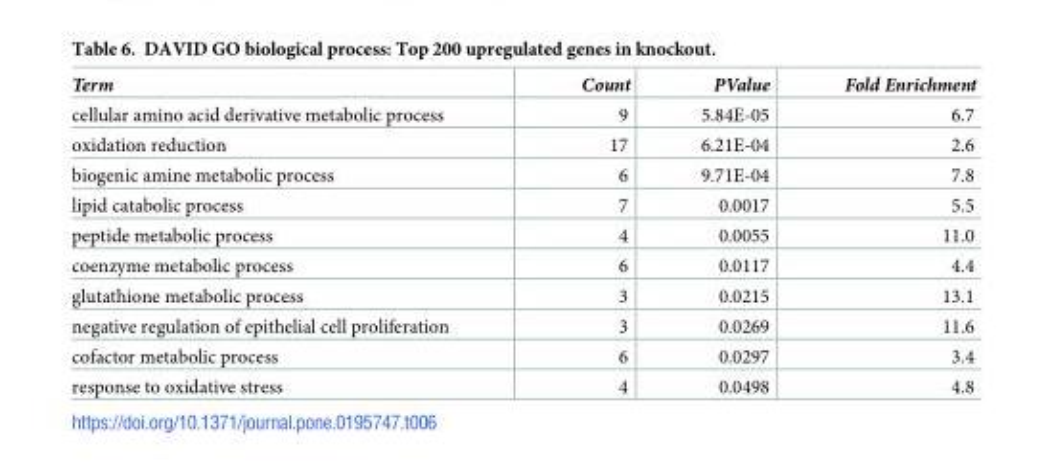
<table><thead><tr><td>Term</td><td>Count</td><td>PValue</td><td>Fold Enrichment</td></tr></thead><tbody><tr><td>cellular amino acid derivative metabolic process</td><td>9</td><td>5.84E-05</td><td>6.7</td></tr><tr><td>oxidation reduction</td><td>17</td><td>6.21E-04</td><td>2.6</td></tr><tr><td>biogenic amine metabolic process</td><td>6</td><td>9.71E-04</td><td>7.8</td></tr><tr><td>lipid catabolic process</td><td>7</td><td>0.0017</td><td>5.5</td></tr><tr><td>peptide metabolic process</td><td>4</td><td>0.0055</td><td>11.0</td></tr><tr><td>coenzyme metabolic process</td><td>6</td><td>0.0117</td><td>4.4</td></tr><tr><td>glutathione metabolic process</td><td>3</td><td>0.0215</td><td>13.1</td></tr><tr><td>negative regulation of epithelial cell proliferation</td><td>3</td><td>0.0269</td><td>11.6</td></tr><tr><td>cofactor metabolic process</td><td>6</td><td>0.0297</td><td>3.4</td></tr><tr><td>response to oxidative stress</td><td>4</td><td>0.0498</td><td>4.8</td></tr></tbody></table>